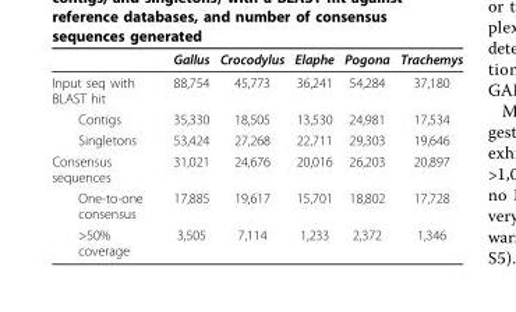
<table><thead><tr><td></td><td>Gallus</td><td>Crocodylus</td><td>Elaphe</td><td>Pogona</td><td>Trachemys</td></tr></thead><tbody><tr><td>Input seq with BLAST hit</td><td>88,754</td><td>45,773</td><td>36,241</td><td>54,284</td><td>37,180</td></tr><tr><td>Contigs</td><td>35,330</td><td>18,505</td><td>13,530</td><td>24,981</td><td>17,534</td></tr><tr><td>Singletons</td><td>53,424</td><td>27,268</td><td>22,711</td><td>29,303</td><td>19,646</td></tr><tr><td>Consensus sequences</td><td>31,021</td><td>24,676</td><td>20,016</td><td>26,203</td><td>20,897</td></tr><tr><td>One-to-one consensus</td><td>17,885</td><td>19,617</td><td>15,701</td><td>18,802</td><td>17,728</td></tr><tr><td>&gt;50% coverage</td><td>3,505</td><td>7,114</td><td>1,233</td><td>2,372</td><td>1,346</td></tr></tbody></table>